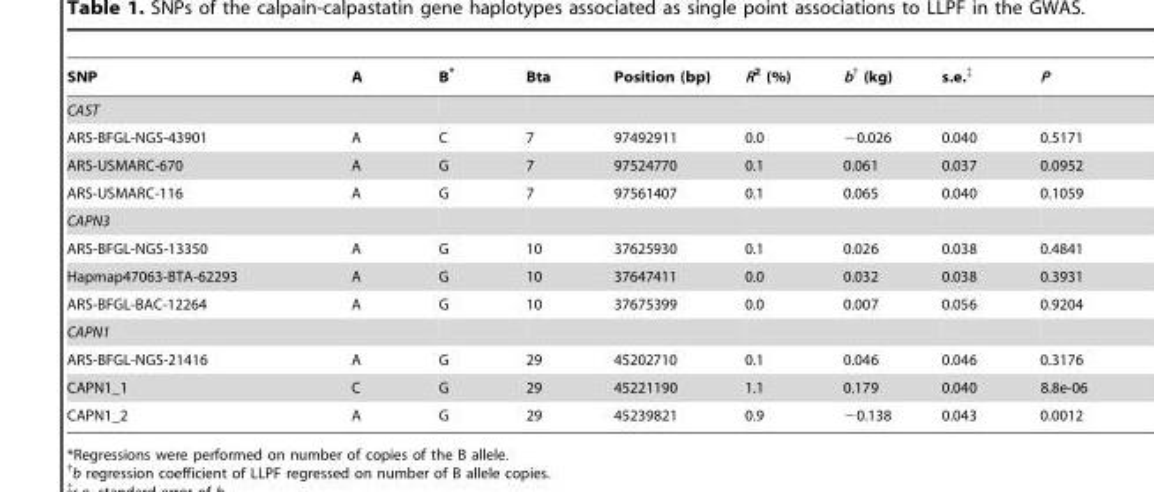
<table><thead><tr><td>SNP</td><td>A</td><td>B*</td><td>Bta</td><td>Position (bp)</td><td>R<sup>2</sup> (%)</td><td>b† (kg)</td><td>s.e.‡</td><td>P</td></tr></thead><tbody><tr><td colspan="9">CAST</td></tr><tr><td>ARS-BFGL-NGS-43901</td><td>A</td><td>C</td><td>7</td><td>97492911</td><td>0.0</td><td>−0.026</td><td>0.040</td><td>0.5171</td></tr><tr><td>ARS-USMARC-670</td><td>A</td><td>G</td><td>7</td><td>97524770</td><td>0.1</td><td>0.061</td><td>0.037</td><td>0.0952</td></tr><tr><td>ARS-USMARC-116</td><td>A</td><td>G</td><td>7</td><td>97561407</td><td>0.1</td><td>0.065</td><td>0.040</td><td>0.1059</td></tr><tr><td colspan="9">CAPN3</td></tr><tr><td>ARS-BFGL-NGS-13350</td><td>A</td><td>G</td><td>10</td><td>37625930</td><td>0.1</td><td>0.026</td><td>0.038</td><td>0.4841</td></tr><tr><td>Hapmap47063-BTA-62293</td><td>A</td><td>G</td><td>10</td><td>37647411</td><td>0.0</td><td>0.032</td><td>0.038</td><td>0.3931</td></tr><tr><td>ARS-BFGL-BAC-12264</td><td>A</td><td>G</td><td>10</td><td>37675399</td><td>0.0</td><td>0.007</td><td>0.056</td><td>0.9204</td></tr><tr><td colspan="9">CAPN1</td></tr><tr><td>ARS-BFGL-NGS-21416</td><td>A</td><td>G</td><td>29</td><td>45202710</td><td>0.1</td><td>0.046</td><td>0.046</td><td>0.3176</td></tr><tr><td>CAPN1_1</td><td>C</td><td>G</td><td>29</td><td>45221190</td><td>1.1</td><td>0.179</td><td>0.040</td><td>8.8e-06</td></tr><tr><td>CAPN1_2</td><td>A</td><td>G</td><td>29</td><td>45239821</td><td>0.9</td><td>−0.138</td><td>0.043</td><td>0.0012</td></tr></tbody></table>